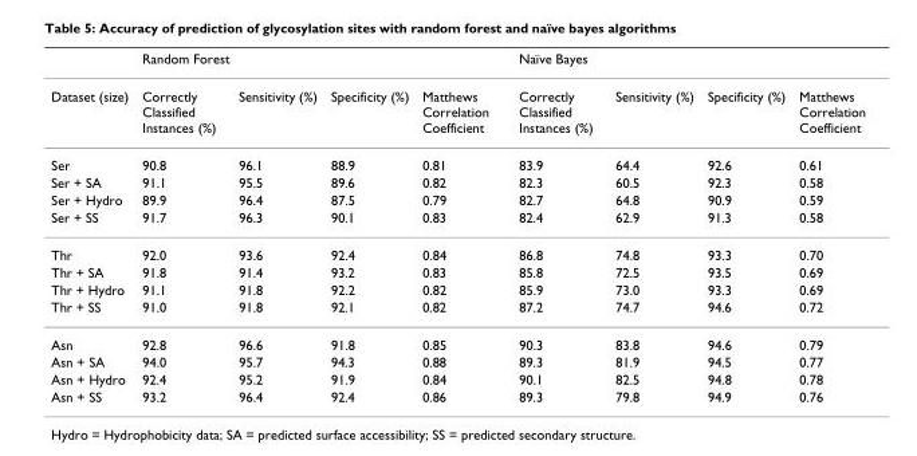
<table><thead><tr><td rowspan="2">Dataset (size)</td><td colspan="4">Random Forest</td><td colspan="4">Naïve Bayes</td></tr><tr><td>Correctly Classified Instances (%)</td><td>Sensitivity (%)</td><td>Specificity (%)</td><td>Matthews Correlation Coefficient</td><td>Correctly Classified Instances (%)</td><td>Sensitivity (%)</td><td>Specificity (%)</td><td>Matthews Correlation Coefficient</td></tr></thead><tbody><tr><td>Ser</td><td>90.8</td><td>96.1</td><td>88.9</td><td>0.81</td><td>83.9</td><td>64.4</td><td>92.6</td><td>0.61</td></tr><tr><td>Ser + SA</td><td>91.1</td><td>95.5</td><td>89.6</td><td>0.82</td><td>82.3</td><td>60.5</td><td>92.3</td><td>0.58</td></tr><tr><td>Ser + Hydro</td><td>89.9</td><td>96.4</td><td>87.5</td><td>0.79</td><td>82.7</td><td>64.8</td><td>90.9</td><td>0.59</td></tr><tr><td>Ser + SS</td><td>91.7</td><td>96.3</td><td>90.1</td><td>0.83</td><td>82.4</td><td>62.9</td><td>91.3</td><td>0.58</td></tr><tr><td>Thr</td><td>92.0</td><td>93.6</td><td>92.4</td><td>0.84</td><td>86.8</td><td>74.8</td><td>93.3</td><td>0.70</td></tr><tr><td>Thr + SA</td><td>91.8</td><td>91.4</td><td>93.2</td><td>0.83</td><td>85.8</td><td>72.5</td><td>93.5</td><td>0.69</td></tr><tr><td>Thr + Hydro</td><td>91.1</td><td>91.8</td><td>92.2</td><td>0.82</td><td>85.9</td><td>73.0</td><td>93.3</td><td>0.69</td></tr><tr><td>Thr + SS</td><td>91.0</td><td>91.8</td><td>92.1</td><td>0.82</td><td>87.2</td><td>74.7</td><td>94.6</td><td>0.72</td></tr><tr><td>Asn</td><td>92.8</td><td>96.6</td><td>91.8</td><td>0.85</td><td>90.3</td><td>83.8</td><td>94.6</td><td>0.79</td></tr><tr><td>Asn + SA</td><td>94.0</td><td>95.7</td><td>94.3</td><td>0.88</td><td>89.3</td><td>81.9</td><td>94.5</td><td>0.77</td></tr><tr><td>Asn + Hydro</td><td>92.4</td><td>95.2</td><td>91.9</td><td>0.84</td><td>90.1</td><td>82.5</td><td>94.8</td><td>0.78</td></tr><tr><td>Asn + SS</td><td>93.2</td><td>96.4</td><td>92.4</td><td>0.86</td><td>89.3</td><td>79.8</td><td>94.9</td><td>0.76</td></tr></tbody></table>